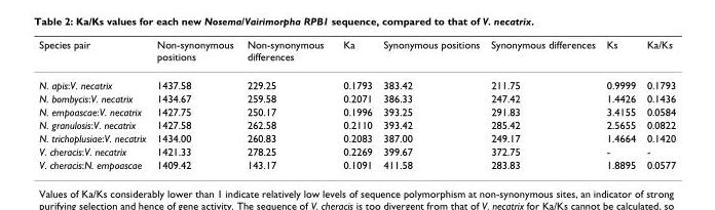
<table><thead><tr><td>Species pair</td><td>Non-synonymous positions</td><td>Non-synonymous differences</td><td>Ka</td><td>Synonymous positions</td><td>Synonymous differences</td><td>Ks</td><td>Ka/Ks</td></tr></thead><tbody><tr><td>N. apis:V. necatrix</td><td>1437.58</td><td>229.25</td><td>0.1793</td><td>383.42</td><td>211.75</td><td>0.9999</td><td>0.1793</td></tr><tr><td>N. bombycis:V. necatrix</td><td>1434.67</td><td>259.58</td><td>0.2071</td><td>386.33</td><td>247.42</td><td>1.4426</td><td>0.1436</td></tr><tr><td>N. empoascae:V. necatrix</td><td>1427.75</td><td>250.17</td><td>0.1996</td><td>393.25</td><td>291.83</td><td>3.4155</td><td>0.0584</td></tr><tr><td>N. granulosis:V. necatrix</td><td>1427.58</td><td>262.58</td><td>0.2110</td><td>393.42</td><td>285.42</td><td>2.5655</td><td>0.0822</td></tr><tr><td>N. trichoplusiae:V. necatrix</td><td>1434.00</td><td>260.83</td><td>0.2083</td><td>387.00</td><td>249.17</td><td>1.4664</td><td>0.1420</td></tr><tr><td>V. cheracis:V. necatrix</td><td>1421.33</td><td>278.25</td><td>0.2269</td><td>399.67</td><td>372.75</td><td>-</td><td>-</td></tr><tr><td>V. cheracis:N. empoascae</td><td>1409.42</td><td>143.17</td><td>0.1091</td><td>411.58</td><td>283.83</td><td>1.8895</td><td>0.0577</td></tr></tbody></table>